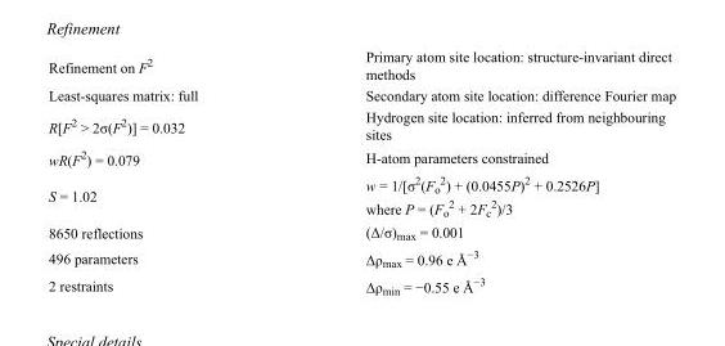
<table><tbody><tr><td>Refinement on F<sup>2</sup></td><td>Primary atom site location: structure-invariant direct methods</td></tr><tr><td>Least-squares matrix: full</td><td>Secondary atom site location: difference Fourier map</td></tr><tr><td>R[F<sup>2</sup> &gt; 2σ(F<sup>2</sup>)] = 0.032</td><td>Hydrogen site location: inferred from neighbouring sites</td></tr><tr><td>wR(F<sup>2</sup>) = 0.079</td><td>H-atom parameters constrained</td></tr><tr><td>S = 1.02</td><td>w = 1/[σ<sup>2</sup>(F<sub>o</sub> <sup>2</sup>) + (0.0455P)<sup>2</sup> + 0.2526P] where P = (F<sub>o</sub> <sup>2</sup> + 2F<sub>c</sub> <sup>2</sup>)/3</td></tr><tr><td>8650 reflections</td><td>(Δ/σ)<sub>max</sub> = 0.001</td></tr><tr><td>496 parameters</td><td>Δρ<sub>max</sub> = 0.96 e Å<sup>−3</sup></td></tr><tr><td>2 restraints</td><td>Δρ<sub>min</sub> = −0.55 e Å<sup>−3</sup></td></tr></tbody></table>